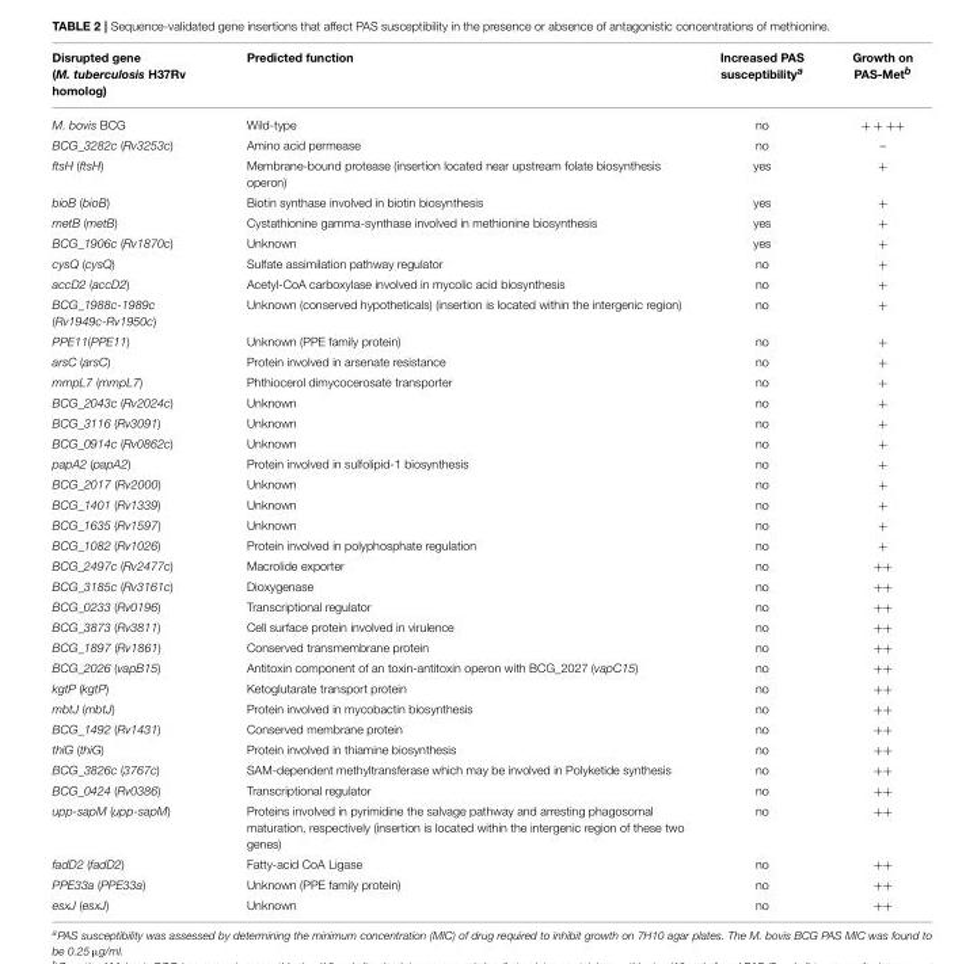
<table><thead><tr><td>Disrupted gene (M. tuberculosis H37Rv homolog)</td><td>Predicted function</td><td>Increased PAS susceptibility<sup>a</sup></td><td>Growth on PAS-Met<sup>b</sup></td></tr></thead><tbody><tr><td>M. bovis BCG</td><td>Wild-type</td><td>no</td><td>+ + ++</td></tr><tr><td>BCG_3282c (Rv3253c)</td><td>Amino acid permease</td><td>no</td><td>–</td></tr><tr><td>ftsH (ftsH)</td><td>Membrane-bound protease (insertion located near upstream folate biosynthesis operon)</td><td>yes</td><td>+</td></tr><tr><td>bioB (bioB)</td><td>Biotin synthase involved in biotin biosynthesis</td><td>yes</td><td>+</td></tr><tr><td>metB (metB)</td><td>Cystathionine gamma-synthase involved in methionine biosynthesis</td><td>yes</td><td>+</td></tr><tr><td>BCG_1906c (Rv1870c)</td><td>Unknown</td><td>yes</td><td>+</td></tr><tr><td>cysQ (cysQ)</td><td>Sulfate assimilation pathway regulator</td><td>no</td><td>+</td></tr><tr><td>accD2 (accD2)</td><td>Acetyl-CoA carboxylase involved in mycolic acid biosynthesis</td><td>no</td><td>+</td></tr><tr><td>BCG_1988c-1989c (Rv1949c-Rv1950c)</td><td>Unknown (conserved hypotheticals) (insertion is located within the intergenic region)</td><td>no</td><td>+</td></tr><tr><td>PPE11(PPE11)</td><td>Unknown (PPE family protein)</td><td>no</td><td>+</td></tr><tr><td>arsC (arsC)</td><td>Protein involved in arsenate resistance</td><td>no</td><td>+</td></tr><tr><td>mmpL7 (mmpL7)</td><td>Phthiocerol dimycocerosate transporter</td><td>no</td><td>+</td></tr><tr><td>BCG_2043c (Rv2024c)</td><td>Unknown</td><td>no</td><td>+</td></tr><tr><td>BCG_3116 (Rv3091)</td><td>Unknown</td><td>no</td><td>+</td></tr><tr><td>BCG_0914c (Rv0862c)</td><td>Unknown</td><td>no</td><td>+</td></tr><tr><td>papA2 (papA2)</td><td>Protein involved in sulfolipid-1 biosynthesis</td><td>no</td><td>+</td></tr><tr><td>BCG_2017 (Rv2000)</td><td>Unknown</td><td>no</td><td>+</td></tr><tr><td>BCG_1401 (Rv1339)</td><td>Unknown</td><td>no</td><td>+</td></tr><tr><td>BCG_1635 (Rv1597)</td><td>Unknown</td><td>no</td><td>+</td></tr><tr><td>BCG_1082 (Rv1026)</td><td>Protein involved in polyphosphate regulation</td><td>no</td><td>+</td></tr><tr><td>BCG_2497c (Rv2477c)</td><td>Macrolide exporter</td><td>no</td><td>++</td></tr><tr><td>BCG_3185c (Rv3161c)</td><td>Dioxygenase</td><td>no</td><td>++</td></tr><tr><td>BCG_0233 (Rv0196)</td><td>Transcriptional regulator</td><td>no</td><td>++</td></tr><tr><td>BCG_3873 (Rv3811)</td><td>Cell surface protein involved in virulence</td><td>no</td><td>++</td></tr><tr><td>BCG_1897 (Rv1861)</td><td>Conserved transmembrane protein</td><td>no</td><td>++</td></tr><tr><td>BCG_2026 (vapB15)</td><td>Antitoxin component of an toxin-antitoxin operon with BCG_2027 (vapC15)</td><td>no</td><td>++</td></tr><tr><td>kgtP (kgtP)</td><td>Ketoglutarate transport protein</td><td>no</td><td>++</td></tr><tr><td>mbtJ (mbtJ)</td><td>Protein involved in mycobactin biosynthesis</td><td>no</td><td>++</td></tr><tr><td>BCG_1492 (Rv1431)</td><td>Conserved membrane protein</td><td>no</td><td>++</td></tr><tr><td>thiG (thiG)</td><td>Protein involved in thiamine biosynthesis</td><td>no</td><td>++</td></tr><tr><td>BCG_3826c (3767c)</td><td>SAM-dependent methyltransferase which may be involved in Polyketide synthesis</td><td>no</td><td>++</td></tr><tr><td>BCG_0424 (Rv0386)</td><td>Transcriptional regulator</td><td>no</td><td>++</td></tr><tr><td>upp-sapM (upp-sapM)</td><td>Proteins involved in pyrimidine the salvage pathway and arresting phagosomal maturation, respectively (insertion is located within the intergenic region of these two genes)</td><td>no</td><td>++</td></tr><tr><td>fadD2 (fadD2)</td><td>Fatty-acid CoA Ligase</td><td>no</td><td>++</td></tr><tr><td>PPE33a (PPE33a)</td><td>Unknown (PPE family protein)</td><td>no</td><td>++</td></tr><tr><td>esxJ (esxJ)</td><td>Unknown</td><td>no</td><td>++</td></tr></tbody></table>